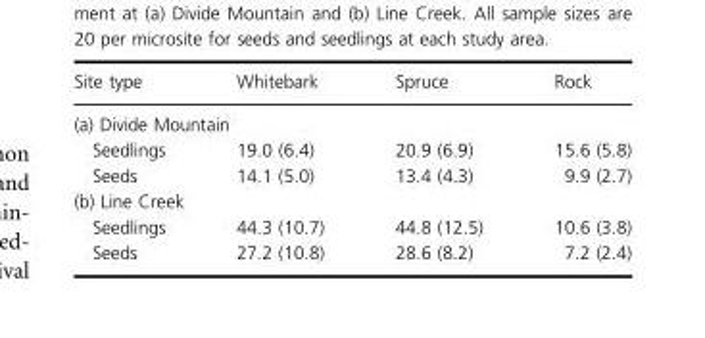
<table><thead><tr><td>Site type</td><td>Whitebark</td><td>Spruce</td><td>Rock</td></tr></thead><tbody><tr><td colspan="4">(a) Divide Mountain</td></tr><tr><td>Seedlings</td><td>19.0 (6.4)</td><td>20.9 (6.9)</td><td>15.6 (5.8)</td></tr><tr><td>Seeds</td><td>14.1 (5.0)</td><td>13.4 (4.3)</td><td>9.9 (2.7)</td></tr><tr><td colspan="4">(b) Line Creek</td></tr><tr><td>Seedlings</td><td>44.3 (10.7)</td><td>44.8 (12.5)</td><td>10.6 (3.8)</td></tr><tr><td>Seeds</td><td>27.2 (10.8)</td><td>28.6 (8.2)</td><td>7.2 (2.4)</td></tr></tbody></table>